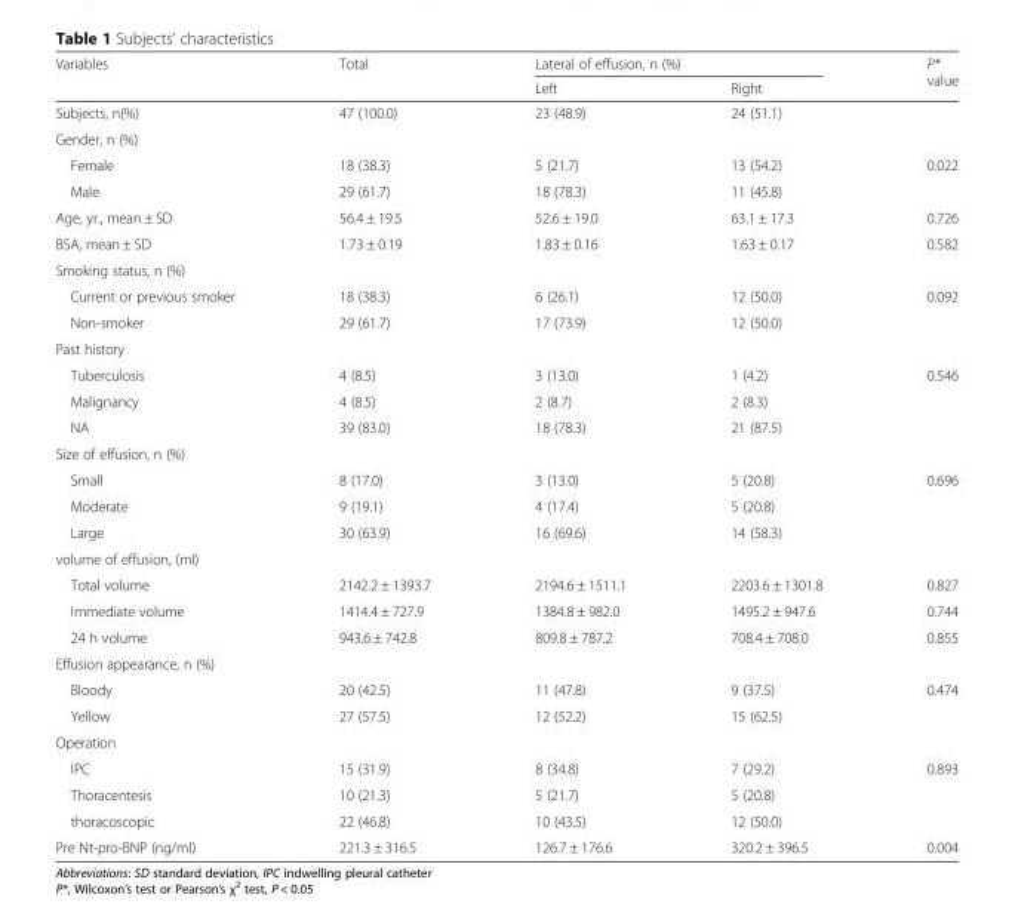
<table><thead><tr><td rowspan="2">Variables</td><td rowspan="2">Total</td><td colspan="2">Lateral of effusion, n (%)</td><td rowspan="2">P* value</td></tr><tr><td>Left</td><td>Right</td></tr></thead><tbody><tr><td>Subjects, n(%)</td><td>47 (100.0)</td><td>23 (48.9)</td><td>24 (51.1)</td><td></td></tr><tr><td colspan="5">Gender, n (%)</td></tr><tr><td>Female</td><td>18 (38.3)</td><td>5 (21.7)</td><td>13 (54.2)</td><td>0.022</td></tr><tr><td>Male</td><td>29 (61.7)</td><td>18 (78.3)</td><td>11 (45.8)</td><td></td></tr><tr><td>Age, yr., mean ± SD</td><td>56.4 ± 19.5</td><td>52.6 ± 19.0</td><td>63.1 ± 17.3</td><td>0.726</td></tr><tr><td>BSA, mean ± SD</td><td>1.73 ± 0.19</td><td>1.83 ± 0.16</td><td>1.63 ± 0.17</td><td>0.582</td></tr><tr><td colspan="5">Smoking status, n (%)</td></tr><tr><td>Current or previous smoker</td><td>18 (38.3)</td><td>6 (26.1)</td><td>12 (50.0)</td><td>0.092</td></tr><tr><td>Non-smoker</td><td>29 (61.7)</td><td>17 (73.9)</td><td>12 (50.0)</td><td></td></tr><tr><td colspan="5">Past history</td></tr><tr><td>Tuberculosis</td><td>4 (8.5)</td><td>3 (13.0)</td><td>1 (4.2)</td><td>0.546</td></tr><tr><td>Malignancy</td><td>4 (8.5)</td><td>2 (8.7)</td><td>2 (8.3)</td><td></td></tr><tr><td>NA</td><td>39 (83.0)</td><td>18 (78.3)</td><td>21 (87.5)</td><td></td></tr><tr><td colspan="5">Size of effusion, n (%)</td></tr><tr><td>Small</td><td>8 (17.0)</td><td>3 (13.0)</td><td>5 (20.8)</td><td>0.696</td></tr><tr><td>Moderate</td><td>9 (19.1)</td><td>4 (17.4)</td><td>5 (20.8)</td><td></td></tr><tr><td>Large</td><td>30 (63.9)</td><td>16 (69.6)</td><td>14 (58.3)</td><td></td></tr><tr><td colspan="5">volume of effusion, (ml)</td></tr><tr><td>Total volume</td><td>2142.2 ± 1393.7</td><td>2194.6 ± 1511.1</td><td>2203.6 ± 1301.8</td><td>0.827</td></tr><tr><td>Immediate volume</td><td>1414.4 ± 727.9</td><td>1384.8 ± 982.0</td><td>1495.2 ± 947.6</td><td>0.744</td></tr><tr><td>24 h volume</td><td>943.6 ± 742.8</td><td>809.8 ± 787.2</td><td>708.4 ± 708.0</td><td>0.855</td></tr><tr><td colspan="5">Effusion appearance, n (%)</td></tr><tr><td>Bloody</td><td>20 (42.5)</td><td>11 (47.8)</td><td>9 (37.5)</td><td>0.474</td></tr><tr><td>Yellow</td><td>27 (57.5)</td><td>12 (52.2)</td><td>15 (62.5)</td><td></td></tr><tr><td colspan="5">Operation</td></tr><tr><td>IPC</td><td>15 (31.9)</td><td>8 (34.8)</td><td>7 (29.2)</td><td>0.893</td></tr><tr><td>Thoracentesis</td><td>10 (21.3)</td><td>5 (21.7)</td><td>5 (20.8)</td><td></td></tr><tr><td>thoracoscopic</td><td>22 (46.8)</td><td>10 (43.5)</td><td>12 (50.0)</td><td></td></tr><tr><td>Pre Nt-pro-BNP (ng/ml)</td><td>221.3 ± 316.5</td><td>126.7 ± 176.6</td><td>320.2 ± 396.5</td><td>0.004</td></tr></tbody></table>